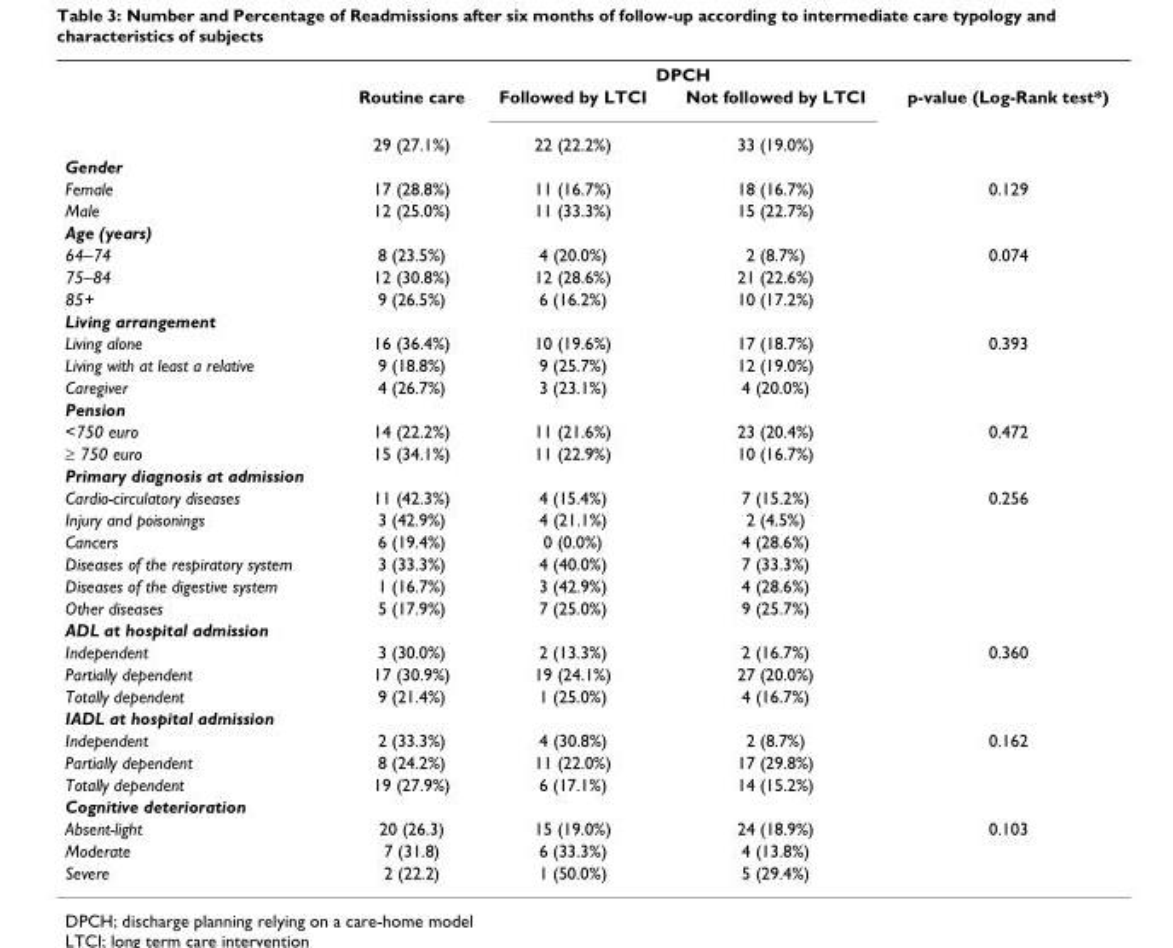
<table><thead><tr><td rowspan="2"></td><td rowspan="2">Routine care</td><td colspan="2">DPCH</td><td rowspan="2">p-value (Log-Rank test*)</td></tr><tr><td>Followed by LTCI</td><td>Not followed by LTCI</td></tr></thead><tbody><tr><td></td><td>29 (27.1%)</td><td>22 (22.2%)</td><td>33 (19.0%)</td><td></td></tr><tr><td colspan="5">Gender</td></tr><tr><td>Female</td><td>17 (28.8%)</td><td>11 (16.7%)</td><td>18 (16.7%)</td><td>0.129</td></tr><tr><td>Male</td><td>12 (25.0%)</td><td>11 (33.3%)</td><td>15 (22.7%)</td><td></td></tr><tr><td colspan="5">Age (years)</td></tr><tr><td>64–74</td><td>8 (23.5%)</td><td>4 (20.0%)</td><td>2 (8.7%)</td><td>0.074</td></tr><tr><td>75–84</td><td>12 (30.8%)</td><td>12 (28.6%)</td><td>21 (22.6%)</td><td></td></tr><tr><td>85+</td><td>9 (26.5%)</td><td>6 (16.2%)</td><td>10 (17.2%)</td><td></td></tr><tr><td colspan="5">Living arrangement</td></tr><tr><td>Living alone</td><td>16 (36.4%)</td><td>10 (19.6%)</td><td>17 (18.7%)</td><td>0.393</td></tr><tr><td>Living with at least a relative</td><td>9 (18.8%)</td><td>9 (25.7%)</td><td>12 (19.0%)</td><td></td></tr><tr><td>Caregiver</td><td>4 (26.7%)</td><td>3 (23.1%)</td><td>4 (20.0%)</td><td></td></tr><tr><td colspan="5">Pension</td></tr><tr><td>&lt;750 euro</td><td>14 (22.2%)</td><td>11 (21.6%)</td><td>23 (20.4%)</td><td>0.472</td></tr><tr><td>≥ 750 euro</td><td>15 (34.1%)</td><td>11 (22.9%)</td><td>10 (16.7%)</td><td></td></tr><tr><td colspan="5">Primary diagnosis at admission</td></tr><tr><td>Cardio-circulatory diseases</td><td>11 (42.3%)</td><td>4 (15.4%)</td><td>7 (15.2%)</td><td>0.256</td></tr><tr><td>Injury and poisonings</td><td>3 (42.9%)</td><td>4 (21.1%)</td><td>2 (4.5%)</td><td></td></tr><tr><td>Cancers</td><td>6 (19.4%)</td><td>0 (0.0%)</td><td>4 (28.6%)</td><td></td></tr><tr><td>Diseases of the respiratory system</td><td>3 (33.3%)</td><td>4 (40.0%)</td><td>7 (33.3%)</td><td></td></tr><tr><td>Diseases of the digestive system</td><td>1 (16.7%)</td><td>3 (42.9%)</td><td>4 (28.6%)</td><td></td></tr><tr><td>Other diseases</td><td>5 (17.9%)</td><td>7 (25.0%)</td><td>9 (25.7%)</td><td></td></tr><tr><td colspan="5">ADL at hospital admission</td></tr><tr><td>Independent</td><td>3 (30.0%)</td><td>2 (13.3%)</td><td>2 (16.7%)</td><td>0.360</td></tr><tr><td>Partially dependent</td><td>17 (30.9%)</td><td>19 (24.1%)</td><td>27 (20.0%)</td><td></td></tr><tr><td>Totally dependent</td><td>9 (21.4%)</td><td>1 (25.0%)</td><td>4 (16.7%)</td><td></td></tr><tr><td colspan="5">IADL at hospital admission</td></tr><tr><td>Independent</td><td>2 (33.3%)</td><td>4 (30.8%)</td><td>2 (8.7%)</td><td>0.162</td></tr><tr><td>Partially dependent</td><td>8 (24.2%)</td><td>11 (22.0%)</td><td>17 (29.8%)</td><td></td></tr><tr><td>Totally dependent</td><td>19 (27.9%)</td><td>6 (17.1%)</td><td>14 (15.2%)</td><td></td></tr><tr><td colspan="5">Cognitive deterioration</td></tr><tr><td>Absent-light</td><td>20 (26.3)</td><td>15 (19.0%)</td><td>24 (18.9%)</td><td>0.103</td></tr><tr><td>Moderate</td><td>7 (31.8)</td><td>6 (33.3%)</td><td>4 (13.8%)</td><td></td></tr><tr><td>Severe</td><td>2 (22.2)</td><td>1 (50.0%)</td><td>5 (29.4%)</td><td></td></tr></tbody></table>